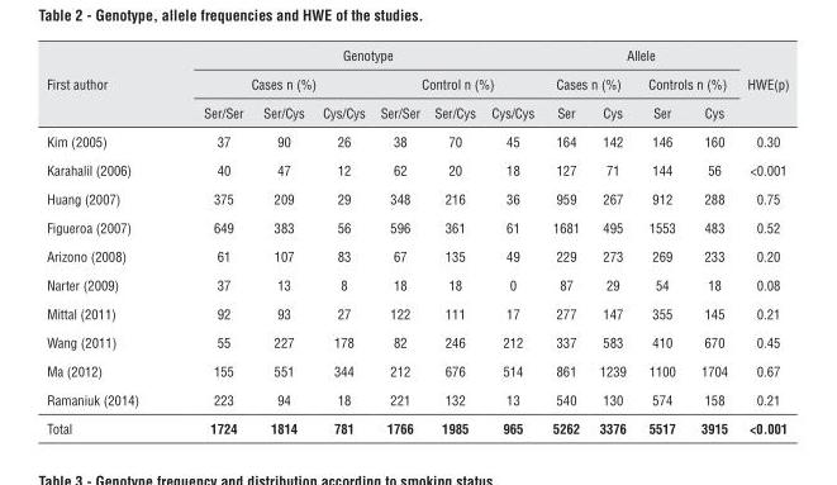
<table><thead><tr><td rowspan="3">First author</td><td colspan="6">Genotype</td><td colspan="4">Allele</td><td rowspan="3">HWE(p)</td></tr><tr><td colspan="3">Cases n (%)</td><td colspan="3">Control n (%)</td><td colspan="2">Cases n (%)</td><td colspan="2">Controls n (%)</td></tr><tr><td>Ser/Ser</td><td>Ser/Cys</td><td>Cys/Cys</td><td>Ser/Ser</td><td>Ser/Cys</td><td>Cys/Cys</td><td>Ser</td><td>Cys</td><td>Ser</td><td>Cys</td></tr></thead><tbody><tr><td>Kim (2005)</td><td>37</td><td>90</td><td>26</td><td>38</td><td>70</td><td>45</td><td>164</td><td>142</td><td>146</td><td>160</td><td>0.30</td></tr><tr><td>Karahalil (2006)</td><td>40</td><td>47</td><td>12</td><td>62</td><td>20</td><td>18</td><td>127</td><td>71</td><td>144</td><td>56</td><td>&lt;0.001</td></tr><tr><td>Huang (2007)</td><td>375</td><td>209</td><td>29</td><td>348</td><td>216</td><td>36</td><td>959</td><td>267</td><td>912</td><td>288</td><td>0.75</td></tr><tr><td>Figueroa (2007)</td><td>649</td><td>383</td><td>56</td><td>596</td><td>361</td><td>61</td><td>1681</td><td>495</td><td>1553</td><td>483</td><td>0.52</td></tr><tr><td>Arizono (2008)</td><td>61</td><td>107</td><td>83</td><td>67</td><td>135</td><td>49</td><td>229</td><td>273</td><td>269</td><td>233</td><td>0.20</td></tr><tr><td>Narter (2009)</td><td>37</td><td>13</td><td>8</td><td>18</td><td>18</td><td>0</td><td>87</td><td>29</td><td>54</td><td>18</td><td>0.08</td></tr><tr><td>Mittal (2011)</td><td>92</td><td>93</td><td>27</td><td>122</td><td>111</td><td>17</td><td>277</td><td>147</td><td>355</td><td>145</td><td>0.21</td></tr><tr><td>Wang (2011)</td><td>55</td><td>227</td><td>178</td><td>82</td><td>246</td><td>212</td><td>337</td><td>583</td><td>410</td><td>670</td><td>0.45</td></tr><tr><td>Ma (2012)</td><td>155</td><td>551</td><td>344</td><td>212</td><td>676</td><td>514</td><td>861</td><td>1239</td><td>1100</td><td>1704</td><td>0.67</td></tr><tr><td>Ramaniuk (2014)</td><td>223</td><td>94</td><td>18</td><td>221</td><td>132</td><td>13</td><td>540</td><td>130</td><td>574</td><td>158</td><td>0.21</td></tr><tr><td>Total</td><td>1724</td><td>1814</td><td>781</td><td>1766</td><td>1985</td><td>965</td><td>5262</td><td>3376</td><td>5517</td><td>3915</td><td>&lt;0.001</td></tr></tbody></table>